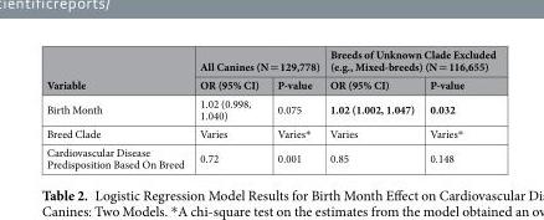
<table><thead><tr><td rowspan="2">Variable</td><td colspan="2">All Canines (N = 129,778)</td><td colspan="2">Breeds of Unknown Clade Excluded (e.g., Mixed-breeds) (N = 116,655)</td></tr><tr><td>OR (95% CI)</td><td>P-value</td><td>OR (95% CI)</td><td>P-value</td></tr></thead><tbody><tr><td>Birth Month</td><td>1.02 (0.998, 1.040)</td><td>0.075</td><td>1.02 (1.002, 1.047)</td><td>0.032</td></tr><tr><td>Breed Clade</td><td>Varies</td><td>Varies*</td><td>Varies</td><td>Varies*</td></tr><tr><td>Cardiovascular Disease Predisposition Based On Breed</td><td>0.72</td><td>0.001</td><td>0.85</td><td>0.148</td></tr></tbody></table>